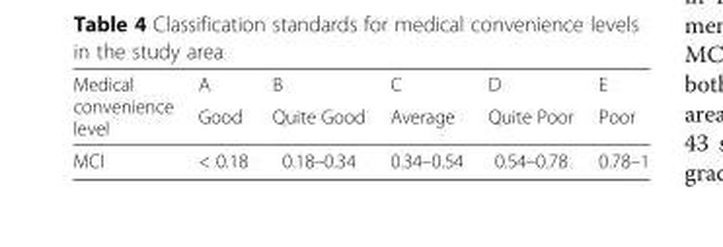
<table><thead><tr><td rowspan="2">Medical convenience level</td><td rowspan="2">A Good</td><td rowspan="2">B Quite Good</td><td rowspan="2">C Average</td><td rowspan="2">D Quite Poor</td><td rowspan="2">E Poor</td></tr><tr></tr></thead><tbody><tr><td>MCI</td><td>&lt; 0.18</td><td>0.18–0.34</td><td>0.34–0.54</td><td>0.54–0.78</td><td>0.78–1</td></tr></tbody></table>